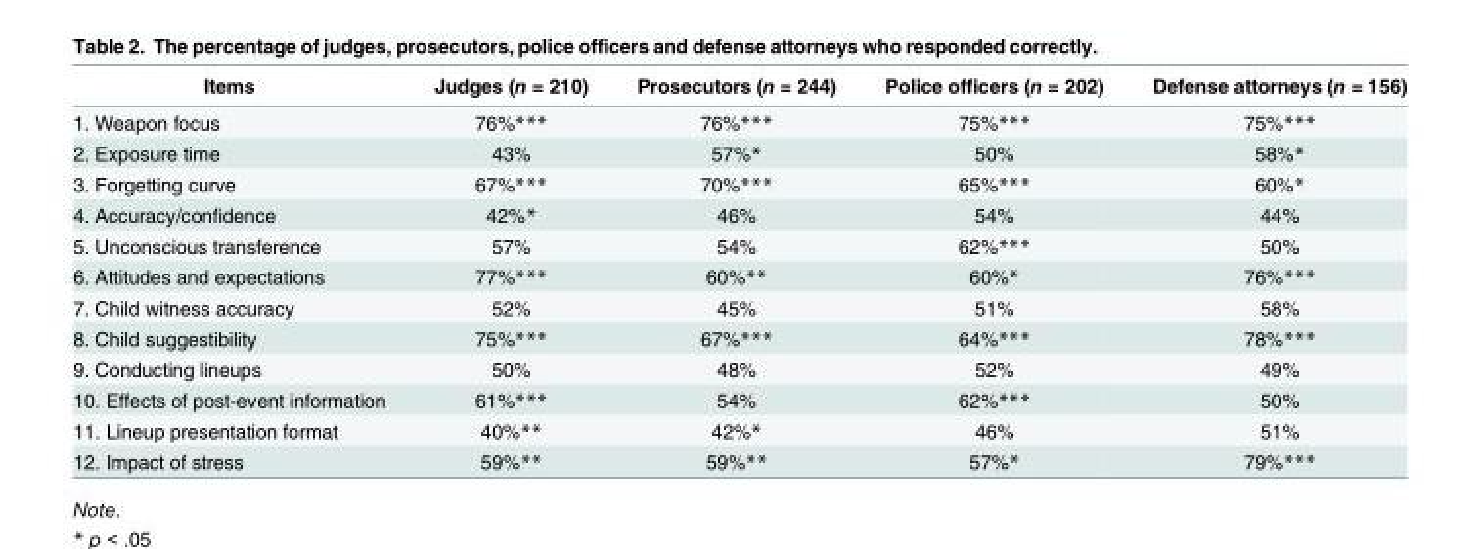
<table><thead><tr><td>Items</td><td>Judges (n = 210)</td><td>Prosecutors (n = 244)</td><td>Police officers (n = 202)</td><td>Defense attorneys (n = 156)</td></tr></thead><tbody><tr><td>1. Weapon focus</td><td>76%***</td><td>76%***</td><td>75%***</td><td>75%***</td></tr><tr><td>2. Exposure time</td><td>43%</td><td>57%*</td><td>50%</td><td>58%*</td></tr><tr><td>3. Forgetting curve</td><td>67%***</td><td>70%***</td><td>65%***</td><td>60%*</td></tr><tr><td>4. Accuracy/confidence</td><td>42%*</td><td>46%</td><td>54%</td><td>44%</td></tr><tr><td>5. Unconscious transference</td><td>57%</td><td>54%</td><td>62%***</td><td>50%</td></tr><tr><td>6. Attitudes and expectations</td><td>77%***</td><td>60%**</td><td>60%*</td><td>76%***</td></tr><tr><td>7. Child witness accuracy</td><td>52%</td><td>45%</td><td>51%</td><td>58%</td></tr><tr><td>8. Child suggestibility</td><td>75%***</td><td>67%***</td><td>64%***</td><td>78%***</td></tr><tr><td>9. Conducting lineups</td><td>50%</td><td>48%</td><td>52%</td><td>49%</td></tr><tr><td>10. Effects of post-event information</td><td>61%***</td><td>54%</td><td>62%***</td><td>50%</td></tr><tr><td>11. Lineup presentation format</td><td>40%**</td><td>42%*</td><td>46%</td><td>51%</td></tr><tr><td>12. Impact of stress</td><td>59%**</td><td>59%**</td><td>57%*</td><td>79%***</td></tr></tbody></table>